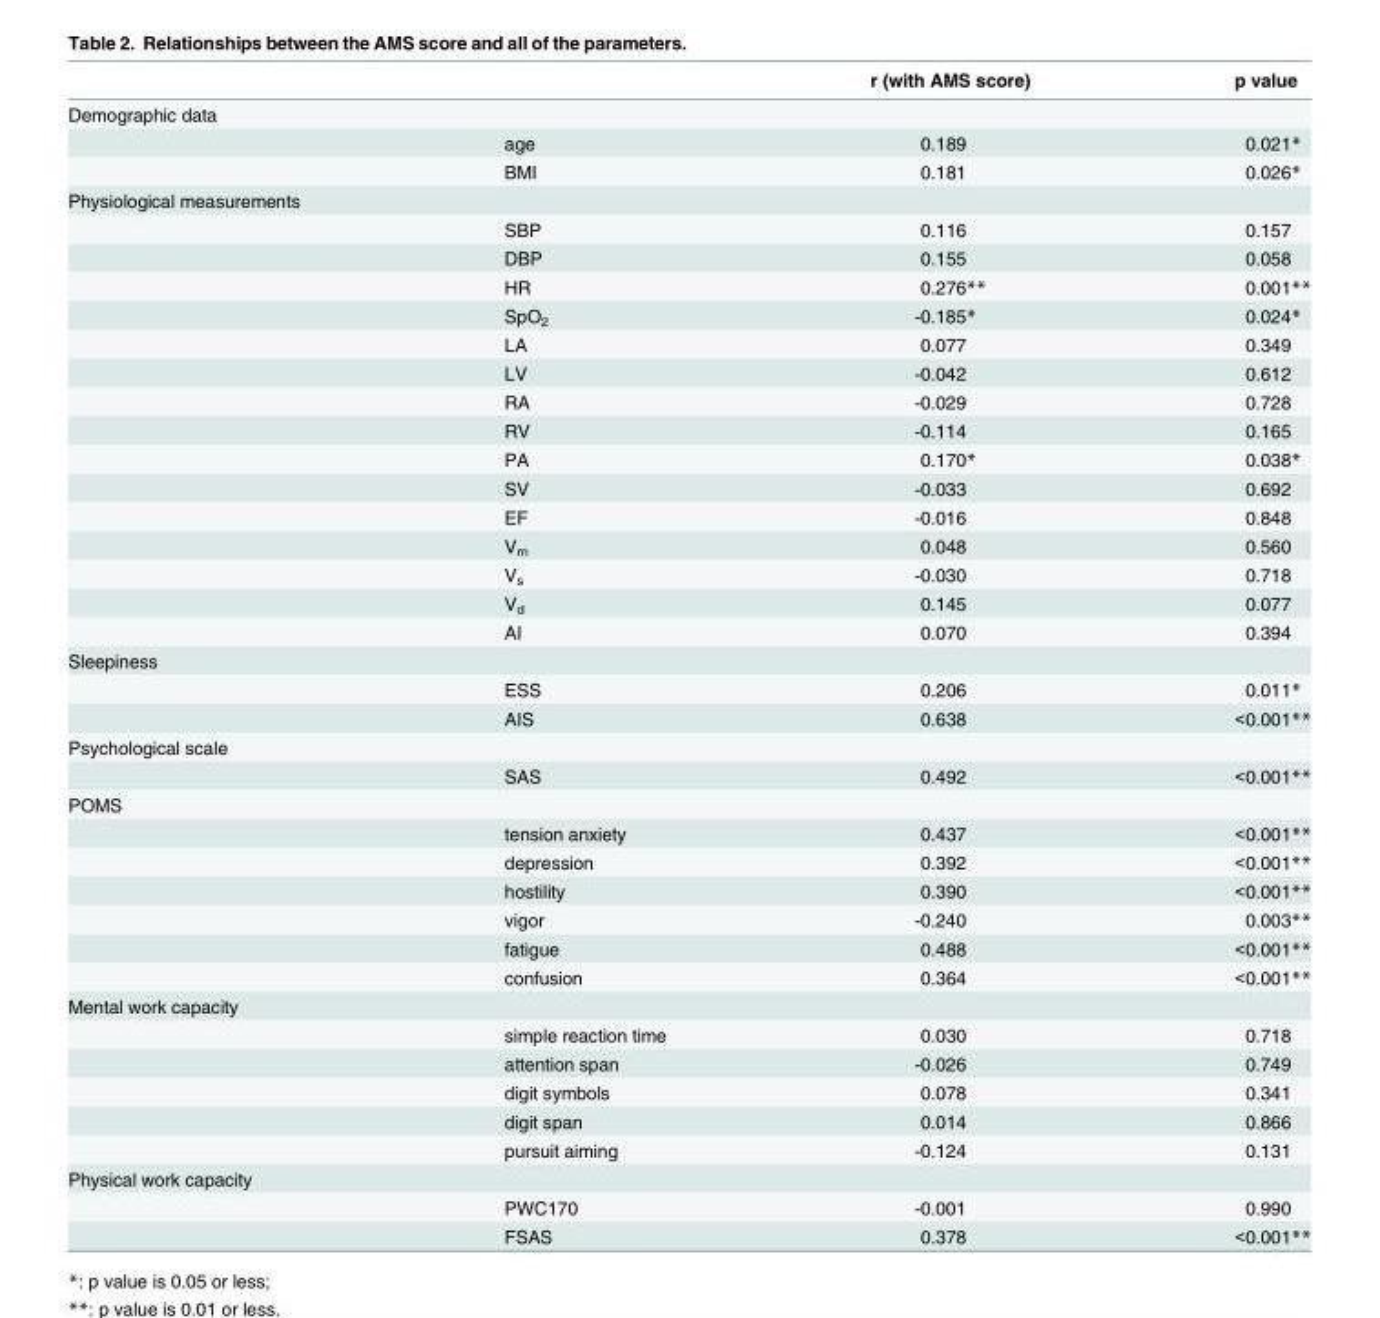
<table><thead><tr><td></td><td></td><td>r (with AMS score)</td><td>p value</td></tr></thead><tbody><tr><td colspan="4">Demographic data</td></tr><tr><td></td><td>age</td><td>0.189</td><td>0.021*</td></tr><tr><td></td><td>BMI</td><td>0.181</td><td>0.026*</td></tr><tr><td colspan="4">Physiological measurements</td></tr><tr><td></td><td>SBP</td><td>0.116</td><td>0.157</td></tr><tr><td></td><td>DBP</td><td>0.155</td><td>0.058</td></tr><tr><td></td><td>HR</td><td>0.276**</td><td>0.001**</td></tr><tr><td></td><td>SpO<sub>2</sub></td><td>-0.185*</td><td>0.024*</td></tr><tr><td></td><td>LA</td><td>0.077</td><td>0.349</td></tr><tr><td></td><td>LV</td><td>-0.042</td><td>0.612</td></tr><tr><td></td><td>RA</td><td>-0.029</td><td>0.728</td></tr><tr><td></td><td>RV</td><td>-0.114</td><td>0.165</td></tr><tr><td></td><td>PA</td><td>0.170*</td><td>0.038*</td></tr><tr><td></td><td>SV</td><td>-0.033</td><td>0.692</td></tr><tr><td></td><td>EF</td><td>-0.016</td><td>0.848</td></tr><tr><td></td><td>V<sub>m</sub></td><td>0.048</td><td>0.560</td></tr><tr><td></td><td>V<sub>s</sub></td><td>-0.030</td><td>0.718</td></tr><tr><td></td><td>V<sub>d</sub></td><td>0.145</td><td>0.077</td></tr><tr><td></td><td>AI</td><td>0.070</td><td>0.394</td></tr><tr><td colspan="4">Sleepiness</td></tr><tr><td></td><td>ESS</td><td>0.206</td><td>0.011*</td></tr><tr><td></td><td>AIS</td><td>0.638</td><td>&lt;0.001**</td></tr><tr><td colspan="4">Psychological scale</td></tr><tr><td></td><td>SAS</td><td>0.492</td><td>&lt;0.001**</td></tr><tr><td colspan="4">POMS</td></tr><tr><td></td><td>tension anxiety</td><td>0.437</td><td>&lt;0.001**</td></tr><tr><td></td><td>depression</td><td>0.392</td><td>&lt;0.001**</td></tr><tr><td></td><td>hostility</td><td>0.390</td><td>&lt;0.001**</td></tr><tr><td></td><td>vigor</td><td>-0.240</td><td>0.003**</td></tr><tr><td></td><td>fatigue</td><td>0.488</td><td>&lt;0.001**</td></tr><tr><td></td><td>confusion</td><td>0.364</td><td>&lt;0.001**</td></tr><tr><td colspan="4">Mental work capacity</td></tr><tr><td></td><td>simple reaction time</td><td>0.030</td><td>0.718</td></tr><tr><td></td><td>attention span</td><td>-0.026</td><td>0.749</td></tr><tr><td></td><td>digit symbols</td><td>0.078</td><td>0.341</td></tr><tr><td></td><td>digit span</td><td>0.014</td><td>0.866</td></tr><tr><td></td><td>pursuit aiming</td><td>-0.124</td><td>0.131</td></tr><tr><td colspan="4">Physical work capacity</td></tr><tr><td></td><td>PWC170</td><td>-0.001</td><td>0.990</td></tr><tr><td></td><td>FSAS</td><td>0.378</td><td>&lt;0.001**</td></tr></tbody></table>